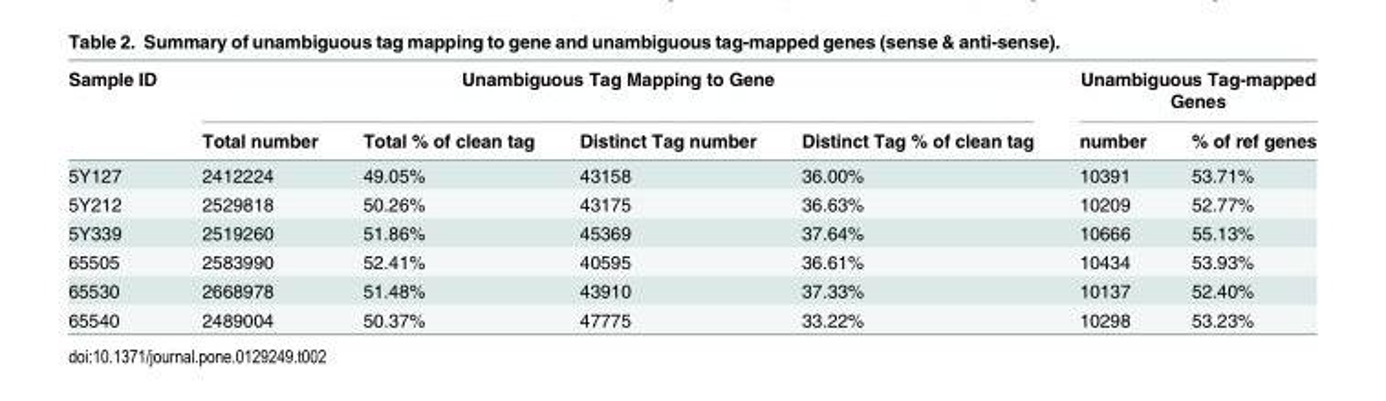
<table><thead><tr><td rowspan="2">Sample ID</td><td colspan="4">Unambiguous Tag Mapping to Gene</td><td colspan="2">Unambiguous Tag-mapped Genes</td></tr><tr><td>Total number</td><td>Total % of clean tag</td><td>Distinct Tag number</td><td>Distinct Tag % of clean tag</td><td>number</td><td>% of ref genes</td></tr></thead><tbody><tr><td>5Y127</td><td>2412224</td><td>49.05%</td><td>43158</td><td>36.00%</td><td>10391</td><td>53.71%</td></tr><tr><td>5Y212</td><td>2529818</td><td>50.26%</td><td>43175</td><td>36.63%</td><td>10209</td><td>52.77%</td></tr><tr><td>5Y339</td><td>2519260</td><td>51.86%</td><td>45369</td><td>37.64%</td><td>10666</td><td>55.13%</td></tr><tr><td>65505</td><td>2583990</td><td>52.41%</td><td>40595</td><td>36.61%</td><td>10434</td><td>53.93%</td></tr><tr><td>65530</td><td>2668978</td><td>51.48%</td><td>43910</td><td>37.33%</td><td>10137</td><td>52.40%</td></tr><tr><td>65540</td><td>2489004</td><td>50.37%</td><td>47775</td><td>33.22%</td><td>10298</td><td>53.23%</td></tr></tbody></table>